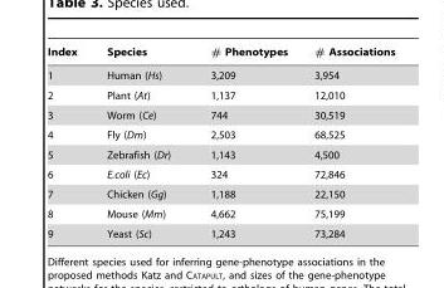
<table><thead><tr><td>Index</td><td>Species</td><td># Phenotypes</td><td># Associations</td></tr></thead><tbody><tr><td>1</td><td>Human (Hs)</td><td>3,209</td><td>3,954</td></tr><tr><td>2</td><td>Plant (At)</td><td>1,137</td><td>12,010</td></tr><tr><td>3</td><td>Worm (Ce)</td><td>744</td><td>30,519</td></tr><tr><td>4</td><td>Fly (Dm)</td><td>2,503</td><td>68,525</td></tr><tr><td>5</td><td>Zebrafish (Dr)</td><td>1,143</td><td>4,500</td></tr><tr><td>6</td><td>E.coli (Ec)</td><td>324</td><td>72,846</td></tr><tr><td>7</td><td>Chicken (Gg)</td><td>1,188</td><td>22,150</td></tr><tr><td>8</td><td>Mouse (Mm)</td><td>4,662</td><td>75,199</td></tr><tr><td>9</td><td>Yeast (Sc)</td><td>1,243</td><td>73,284</td></tr></tbody></table>